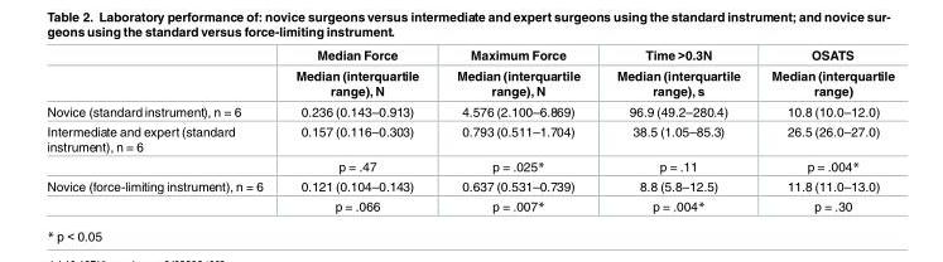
<table><thead><tr><td rowspan="2"></td><td rowspan="2">Median Force Median (interquartile range), N</td><td rowspan="2">Maximum Force Median (interquartile range), N</td><td rowspan="2">Time &gt;0.3N Median (interquartile range), s</td><td rowspan="2">OSATS Median (interquartile range)</td></tr><tr></tr></thead><tbody><tr><td>Novice (standard instrument), n = 6</td><td>0.236 (0.143–0.913)</td><td>4.576 (2.100–6.869)</td><td>96.9 (49.2–280.4)</td><td>10.8 (10.0–12.0)</td></tr><tr><td rowspan="2">Intermediate and expert (standard instrument), n = 6</td><td>0.157 (0.116–0.303)</td><td>0.793 (0.511–1.704)</td><td>38.5 (1.05–85.3)</td><td>26.5 (26.0–27.0)</td></tr><tr><td>p = .47</td><td>p = .025*</td><td>p = .11</td><td>p = .004*</td></tr><tr><td rowspan="2">Novice (force-limiting instrument), n = 6</td><td>0.121 (0.104–0.143)</td><td>0.637 (0.531–0.739)</td><td>8.8 (5.8–12.5)</td><td>11.8 (11.0–13.0)</td></tr><tr><td>p = .066</td><td>p = .007*</td><td>p = .004*</td><td>p = .30</td></tr></tbody></table>